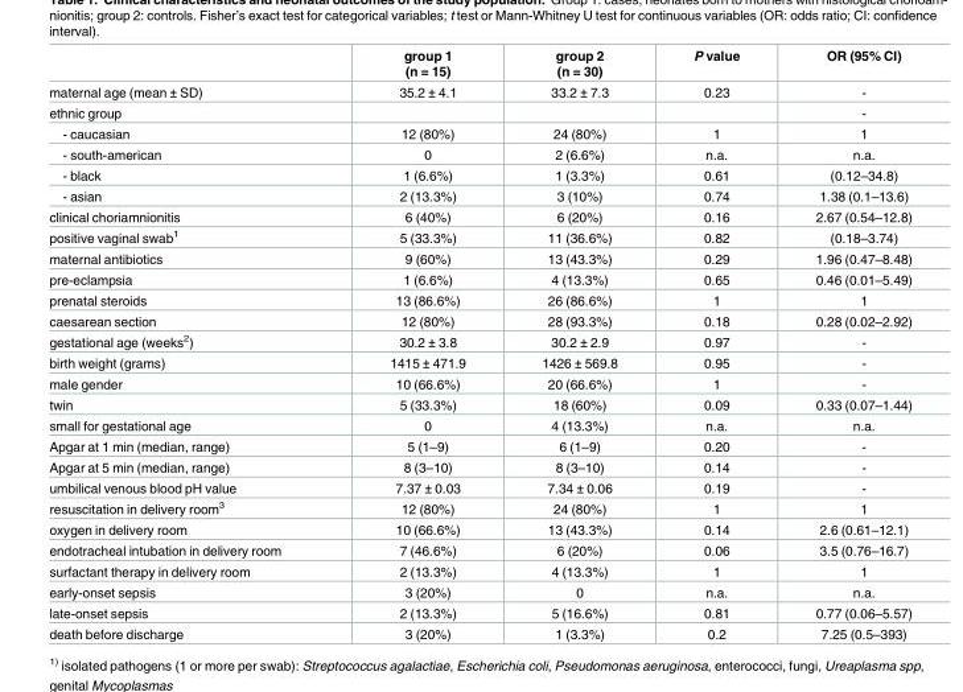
<table><thead><tr><td></td><td>group 1 (n = 15)</td><td>group 2 (n = 30)</td><td>P value</td><td>OR (95% CI)</td></tr></thead><tbody><tr><td>maternal age (mean ± SD)</td><td>35.2 ± 4.1</td><td>33.2 ± 7.3</td><td>0.23</td><td>-</td></tr><tr><td>ethnic group</td><td></td><td></td><td></td><td>-</td></tr><tr><td>- caucasian</td><td>12 (80%)</td><td>24 (80%)</td><td>1</td><td>1</td></tr><tr><td>- south-american</td><td>0</td><td>2 (6.6%)</td><td>n.a.</td><td>n.a.</td></tr><tr><td>- black</td><td>1 (6.6%)</td><td>1 (3.3%)</td><td>0.61</td><td>(0.12–34.8)</td></tr><tr><td>- asian</td><td>2 (13.3%)</td><td>3 (10%)</td><td>0.74</td><td>1.38 (0.1–13.6)</td></tr><tr><td>clinical choriamnionitis</td><td>6 (40%)</td><td>6 (20%)</td><td>0.16</td><td>2.67 (0.54–12.8)</td></tr><tr><td>positive vaginal swab<sup>1</sup></td><td>5 (33.3%)</td><td>11 (36.6%)</td><td>0.82</td><td>(0.18–3.74)</td></tr><tr><td>maternal antibiotics</td><td>9 (60%)</td><td>13 (43.3%)</td><td>0.29</td><td>1.96 (0.47–8.48)</td></tr><tr><td>pre-eclampsia</td><td>1 (6.6%)</td><td>4 (13.3%)</td><td>0.65</td><td>0.46 (0.01–5.49)</td></tr><tr><td>prenatal steroids</td><td>13 (86.6%)</td><td>26 (86.6%)</td><td>1</td><td>1</td></tr><tr><td>caesarean section</td><td>12 (80%)</td><td>28 (93.3%)</td><td>0.18</td><td>0.28 (0.02–2.92)</td></tr><tr><td>gestational age (weeks<sup>2</sup>)</td><td>30.2 ± 3.8</td><td>30.2 ± 2.9</td><td>0.97</td><td>-</td></tr><tr><td>birth weight (grams)</td><td>1415 ± 471.9</td><td>1426 ± 569.8</td><td>0.95</td><td>-</td></tr><tr><td>male gender</td><td>10 (66.6%)</td><td>20 (66.6%)</td><td>1</td><td>-</td></tr><tr><td>twin</td><td>5 (33.3%)</td><td>18 (60%)</td><td>0.09</td><td>0.33 (0.07–1.44)</td></tr><tr><td>small for gestational age</td><td>0</td><td>4 (13.3%)</td><td>n.a.</td><td>n.a.</td></tr><tr><td>Apgar at 1 min (median, range)</td><td>5 (1–9)</td><td>6 (1–9)</td><td>0.20</td><td>-</td></tr><tr><td>Apgar at 5 min (median, range)</td><td>8 (3–10)</td><td>8 (3–10)</td><td>0.14</td><td>-</td></tr><tr><td>umbilical venous blood pH value</td><td>7.37 ± 0.03</td><td>7.34 ± 0.06</td><td>0.19</td><td>-</td></tr><tr><td>resuscitation in delivery room<sup>3</sup></td><td>12 (80%)</td><td>24 (80%)</td><td>1</td><td>1</td></tr><tr><td>oxygen in delivery room</td><td>10 (66.6%)</td><td>13 (43.3%)</td><td>0.14</td><td>2.6 (0.61–12.1)</td></tr><tr><td>endotracheal intubation in delivery room</td><td>7 (46.6%)</td><td>6 (20%)</td><td>0.06</td><td>3.5 (0.76–16.7)</td></tr><tr><td>surfactant therapy in delivery room</td><td>2 (13.3%)</td><td>4 (13.3%)</td><td>1</td><td>1</td></tr><tr><td>early-onset sepsis</td><td>3 (20%)</td><td>0</td><td>n.a.</td><td>n.a.</td></tr><tr><td>late-onset sepsis</td><td>2 (13.3%)</td><td>5 (16.6%)</td><td>0.81</td><td>0.77 (0.06–5.57)</td></tr><tr><td>death before discharge</td><td>3 (20%)</td><td>1 (3.3%)</td><td>0.2</td><td>7.25 (0.5–393)</td></tr></tbody></table>